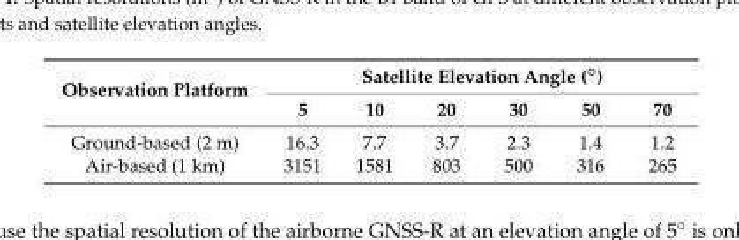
<table><thead><tr><td rowspan="2">Observation Platform</td><td colspan="6">Satellite Elevation Angle (◦)</td></tr><tr><td>5</td><td>10</td><td>20</td><td>30</td><td>50</td><td>70</td></tr></thead><tbody><tr><td>Ground-based (2 m)</td><td>16.3</td><td>7.7</td><td>3.7</td><td>2.3</td><td>1.4</td><td>1.2</td></tr><tr><td>Air-based (1 km)</td><td>3151</td><td>1581</td><td>803</td><td>500</td><td>316</td><td>265</td></tr></tbody></table>